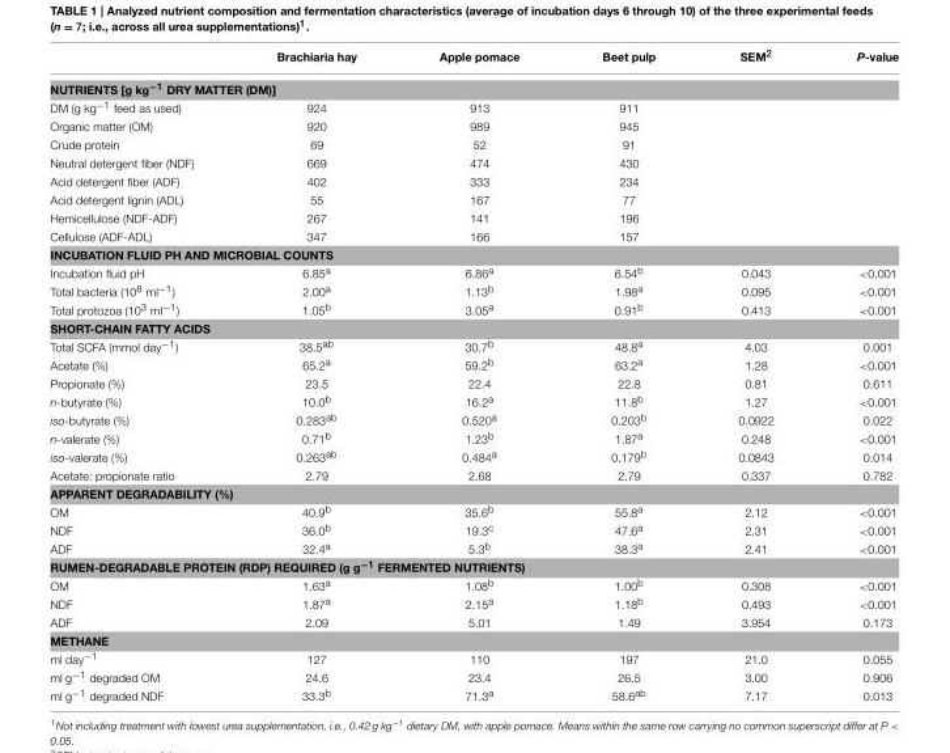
<table><thead><tr><td></td><td>Brachiaria hay</td><td>Apple pomace</td><td>Beet pulp</td><td>SEM<sup>2</sup></td><td>P-value</td></tr></thead><tbody><tr><td colspan="6">NUTRIENTS [g kg<sup>−1</sup> DRY MATTER (DM)]</td></tr><tr><td>DM (g kg<sup>−1</sup> feed as used)</td><td>924</td><td>913</td><td>911</td><td></td><td></td></tr><tr><td>Organic matter (OM)</td><td>920</td><td>989</td><td>945</td><td></td><td></td></tr><tr><td>Crude protein</td><td>69</td><td>52</td><td>91</td><td></td><td></td></tr><tr><td>Neutral detergent fiber (NDF)</td><td>669</td><td>474</td><td>430</td><td></td><td></td></tr><tr><td>Acid detergent fiber (ADF)</td><td>402</td><td>333</td><td>234</td><td></td><td></td></tr><tr><td>Acid detergent lignin (ADL)</td><td>55</td><td>167</td><td>77</td><td></td><td></td></tr><tr><td>Hemicellulose (NDF-ADF)</td><td>267</td><td>141</td><td>196</td><td></td><td></td></tr><tr><td>Cellulose (ADF-ADL)</td><td>347</td><td>166</td><td>157</td><td></td><td></td></tr><tr><td colspan="6">INCUBATION FLUID PH AND MICROBIAL COUNTS</td></tr><tr><td>Incubation fluid pH</td><td>6.85<sup>a</sup></td><td>6.86<sup>a</sup></td><td>6.54<sup>b</sup></td><td>0.043</td><td>&lt;0.001</td></tr><tr><td>Total bacteria (10<sup>8</sup> ml<sup>−1</sup>)</td><td>2.00<sup>a</sup></td><td>1.13<sup>b</sup></td><td>1.98<sup>a</sup></td><td>0.095</td><td>&lt;0.001</td></tr><tr><td>Total protozoa (10<sup>3</sup> ml<sup>−1</sup>)</td><td>1.05<sup>b</sup></td><td>3.05<sup>a</sup></td><td>0.91<sup>b</sup></td><td>0.413</td><td>&lt;0.001</td></tr><tr><td colspan="6">SHORT-CHAIN FATTY ACIDS</td></tr><tr><td>Total SCFA (mmol day<sup>−1</sup>)</td><td>38.5<sup>ab</sup></td><td>30.7<sup>b</sup></td><td>48.8<sup>a</sup></td><td>4.03</td><td>0.001</td></tr><tr><td>Acetate (%)</td><td>65.2<sup>a</sup></td><td>59.2<sup>b</sup></td><td>63.2<sup>a</sup></td><td>1.28</td><td>&lt;0.001</td></tr><tr><td>Propionate (%)</td><td>23.5</td><td>22.4</td><td>22.8</td><td>0.81</td><td>0.611</td></tr><tr><td>n-butyrate (%)</td><td>10.0<sup>b</sup></td><td>16.2<sup>a</sup></td><td>11.8<sup>b</sup></td><td>1.27</td><td>&lt;0.001</td></tr><tr><td>iso-butyrate (%)</td><td>0.283<sup>ab</sup></td><td>0.520<sup>a</sup></td><td>0.203<sup>b</sup></td><td>0.0922</td><td>0.022</td></tr><tr><td>n-valerate (%)</td><td>0.71<sup>b</sup></td><td>1.23<sup>b</sup></td><td>1.87<sup>a</sup></td><td>0.248</td><td>&lt;0.001</td></tr><tr><td>iso-valerate (%)</td><td>0.263<sup>ab</sup></td><td>0.484<sup>a</sup></td><td>0.179<sup>b</sup></td><td>0.0843</td><td>0.014</td></tr><tr><td>Acetate: propionate ratio</td><td>2.79</td><td>2.68</td><td>2.79</td><td>0.337</td><td>0.782</td></tr><tr><td colspan="6">APPARENT DEGRADABILITY (%)</td></tr><tr><td>OM</td><td>40.9<sup>b</sup></td><td>35.6<sup>b</sup></td><td>55.8<sup>a</sup></td><td>2.12</td><td>&lt;0.001</td></tr><tr><td>NDF</td><td>36.0<sup>b</sup></td><td>19.3<sup>c</sup></td><td>47.6<sup>a</sup></td><td>2.31</td><td>&lt;0.001</td></tr><tr><td>ADF</td><td>32.4<sup>a</sup></td><td>5.3<sup>b</sup></td><td>38.3<sup>a</sup></td><td>2.41</td><td>&lt;0.001</td></tr><tr><td colspan="6">RUMEN-DEGRADABLE PROTEIN (RDP) REQUIRED (g g<sup>−1</sup> FERMENTED NUTRIENTS)</td></tr><tr><td>OM</td><td>1.63<sup>a</sup></td><td>1.08<sup>b</sup></td><td>1.00<sup>b</sup></td><td>0.308</td><td>&lt;0.001</td></tr><tr><td>NDF</td><td>1.87<sup>a</sup></td><td>2.15<sup>a</sup></td><td>1.18<sup>b</sup></td><td>0.493</td><td>&lt;0.001</td></tr><tr><td>ADF</td><td>2.09</td><td>5.01</td><td>1.49</td><td>3.954</td><td>0.173</td></tr><tr><td colspan="6">METHANE</td></tr><tr><td>ml day<sup>−1</sup></td><td>127</td><td>110</td><td>197</td><td>21.0</td><td>0.055</td></tr><tr><td>ml g<sup>−1</sup> degraded OM</td><td>24.6</td><td>23.4</td><td>26.5</td><td>3.00</td><td>0.906</td></tr><tr><td>ml g<sup>−1</sup> degraded NDF</td><td>33.3<sup>b</sup></td><td>71.3<sup>a</sup></td><td>58.6<sup>ab</sup></td><td>7.17</td><td>0.013</td></tr></tbody></table>